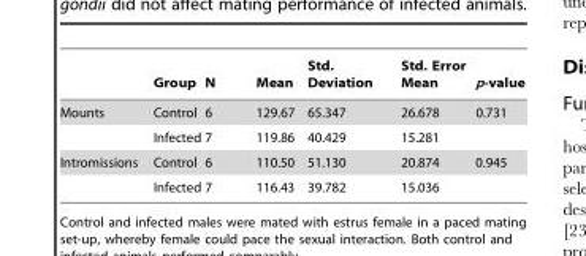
<table><thead><tr><td></td><td>Group</td><td>N</td><td>Mean</td><td>Std. Deviation</td><td>Std. Error Mean</td><td>p-value</td></tr></thead><tbody><tr><td rowspan="2">Mounts</td><td>Control</td><td>6</td><td>129.67</td><td>65.347</td><td>26.678</td><td>0.731</td></tr><tr><td>Infected</td><td>7</td><td>119.86</td><td>40.429</td><td>15.281</td><td></td></tr><tr><td rowspan="2">Intromissions</td><td>Control</td><td>6</td><td>110.50</td><td>51.130</td><td>20.874</td><td>0.945</td></tr><tr><td>Infected</td><td>7</td><td>116.43</td><td>39.782</td><td>15.036</td><td></td></tr></tbody></table>